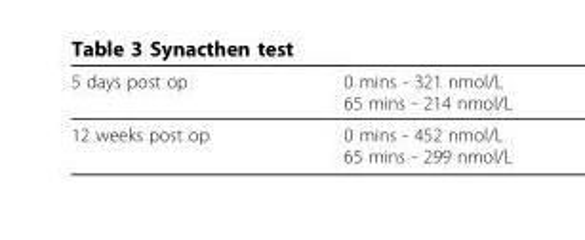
<table><thead><tr><td>5 days post op</td><td>0 mins - 321 nmol/L 65 mins - 214 nmol/L</td></tr></thead><tbody><tr><td>12 weeks post op</td><td>0 mins - 452 nmol/L 65 mins - 299 nmol/L</td></tr></tbody></table>